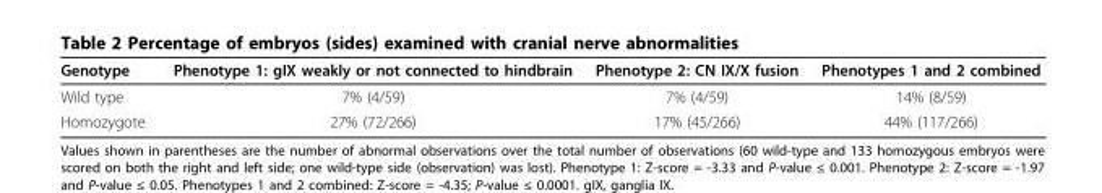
<table><thead><tr><td>Genotype</td><td>Phenotype 1: gIX weakly or not connected to hindbrain</td><td>Phenotype 2: CN IX/X fusion</td><td>Phenotypes 1 and 2 combined</td></tr></thead><tbody><tr><td>Wild type</td><td>7% (4/59)</td><td>7% (4/59)</td><td>14% (8/59)</td></tr><tr><td>Homozygote</td><td>27% (72/266)</td><td>17% (45/266)</td><td>44% (117/266)</td></tr></tbody></table>